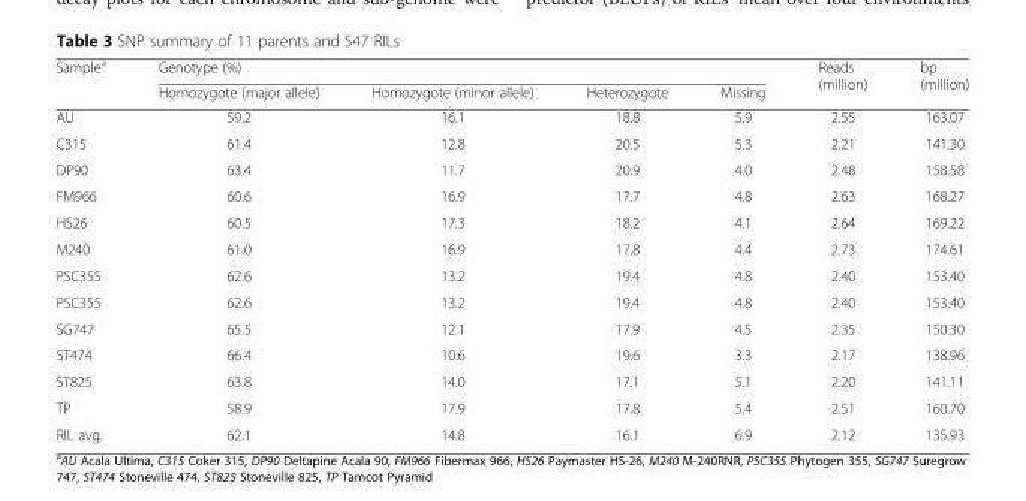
<table><thead><tr><td rowspan="2">Sample<sup>a</sup></td><td colspan="4">Genotype (%)</td><td rowspan="2">Reads (million)</td><td rowspan="2">bp (million)</td></tr><tr><td>Homozygote (major allele)</td><td>Homozygote (minor allele)</td><td>Heterozygote</td><td>Missing</td></tr></thead><tbody><tr><td>AU</td><td>59.2</td><td>16.1</td><td>18.8</td><td>5.9</td><td>2.55</td><td>163.07</td></tr><tr><td>C315</td><td>61.4</td><td>12.8</td><td>20.5</td><td>5.3</td><td>2.21</td><td>141.30</td></tr><tr><td>DP90</td><td>63.4</td><td>11.7</td><td>20.9</td><td>4.0</td><td>2.48</td><td>158.58</td></tr><tr><td>FM966</td><td>60.6</td><td>16.9</td><td>17.7</td><td>4.8</td><td>2.63</td><td>168.27</td></tr><tr><td>HS26</td><td>60.5</td><td>17.3</td><td>18.2</td><td>4.1</td><td>2.64</td><td>169.22</td></tr><tr><td>M240</td><td>61.0</td><td>16.9</td><td>17.8</td><td>4.4</td><td>2.73</td><td>174.61</td></tr><tr><td>PSC355</td><td>62.6</td><td>13.2</td><td>19.4</td><td>4.8</td><td>2.40</td><td>153.40</td></tr><tr><td>PSC355</td><td>62.6</td><td>13.2</td><td>19.4</td><td>4.8</td><td>2.40</td><td>153.40</td></tr><tr><td>SG747</td><td>65.5</td><td>12.1</td><td>17.9</td><td>4.5</td><td>2.35</td><td>150.30</td></tr><tr><td>ST474</td><td>66.4</td><td>10.6</td><td>19.6</td><td>3.3</td><td>2.17</td><td>138.96</td></tr><tr><td>ST825</td><td>63.8</td><td>14.0</td><td>17.1</td><td>5.1</td><td>2.20</td><td>141.11</td></tr><tr><td>TP</td><td>58.9</td><td>17.9</td><td>17.8</td><td>5.4</td><td>2.51</td><td>160.70</td></tr><tr><td>RIL avg.</td><td>62.1</td><td>14.8</td><td>16.1</td><td>6.9</td><td>2.12</td><td>135.93</td></tr></tbody></table>